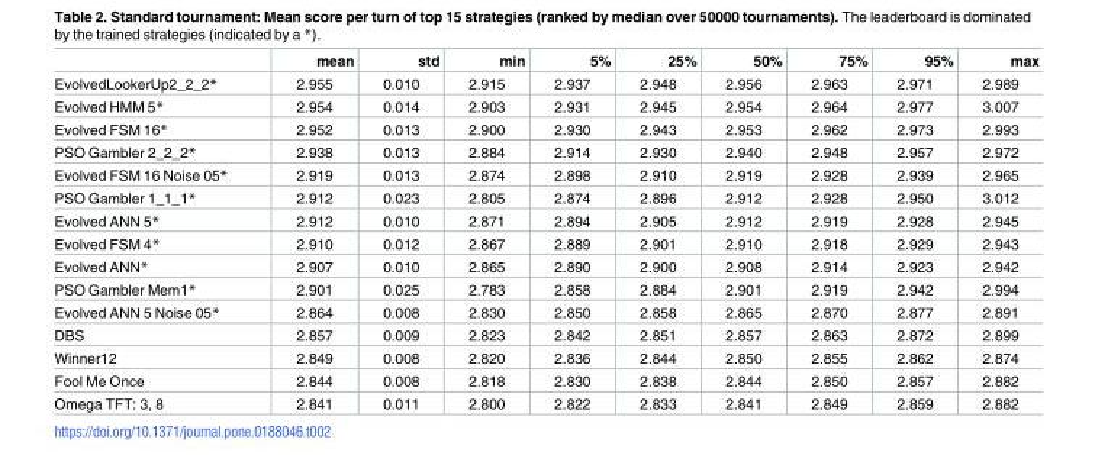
<table><thead><tr><td></td><td>mean</td><td>std</td><td>min</td><td>5%</td><td>25%</td><td>50%</td><td>75%</td><td>95%</td><td>max</td></tr></thead><tbody><tr><td>EvolvedLookerUp2_2_2*</td><td>2.955</td><td>0.010</td><td>2.915</td><td>2.937</td><td>2.948</td><td>2.956</td><td>2.963</td><td>2.971</td><td>2.989</td></tr><tr><td>Evolved HMM 5*</td><td>2.954</td><td>0.014</td><td>2.903</td><td>2.931</td><td>2.945</td><td>2.954</td><td>2.964</td><td>2.977</td><td>3.007</td></tr><tr><td>Evolved FSM 16*</td><td>2.952</td><td>0.013</td><td>2.900</td><td>2.930</td><td>2.943</td><td>2.953</td><td>2.962</td><td>2.973</td><td>2.993</td></tr><tr><td>PSO Gambler 2_2_2*</td><td>2.938</td><td>0.013</td><td>2.884</td><td>2.914</td><td>2.930</td><td>2.940</td><td>2.948</td><td>2.957</td><td>2.972</td></tr><tr><td>Evolved FSM 16 Noise 05*</td><td>2.919</td><td>0.013</td><td>2.874</td><td>2.898</td><td>2.910</td><td>2.919</td><td>2.928</td><td>2.939</td><td>2.965</td></tr><tr><td>PSO Gambler 1_1_1*</td><td>2.912</td><td>0.023</td><td>2.805</td><td>2.874</td><td>2.896</td><td>2.912</td><td>2.928</td><td>2.950</td><td>3.012</td></tr><tr><td>Evolved ANN 5*</td><td>2.912</td><td>0.010</td><td>2.871</td><td>2.894</td><td>2.905</td><td>2.912</td><td>2.919</td><td>2.928</td><td>2.945</td></tr><tr><td>Evolved FSM 4*</td><td>2.910</td><td>0.012</td><td>2.867</td><td>2.889</td><td>2.901</td><td>2.910</td><td>2.918</td><td>2.929</td><td>2.943</td></tr><tr><td>Evolved ANN*</td><td>2.907</td><td>0.010</td><td>2.865</td><td>2.890</td><td>2.900</td><td>2.908</td><td>2.914</td><td>2.923</td><td>2.942</td></tr><tr><td>PSO Gambler Mem1*</td><td>2.901</td><td>0.025</td><td>2.783</td><td>2.858</td><td>2.884</td><td>2.901</td><td>2.919</td><td>2.942</td><td>2.994</td></tr><tr><td>Evolved ANN 5 Noise 05*</td><td>2.864</td><td>0.008</td><td>2.830</td><td>2.850</td><td>2.858</td><td>2.865</td><td>2.870</td><td>2.877</td><td>2.891</td></tr><tr><td>DBS</td><td>2.857</td><td>0.009</td><td>2.823</td><td>2.842</td><td>2.851</td><td>2.857</td><td>2.863</td><td>2.872</td><td>2.899</td></tr><tr><td>Winner12</td><td>2.849</td><td>0.008</td><td>2.820</td><td>2.836</td><td>2.844</td><td>2.850</td><td>2.855</td><td>2.862</td><td>2.874</td></tr><tr><td>Fool Me Once</td><td>2.844</td><td>0.008</td><td>2.818</td><td>2.830</td><td>2.838</td><td>2.844</td><td>2.850</td><td>2.857</td><td>2.882</td></tr><tr><td>Omega TFT: 3, 8</td><td>2.841</td><td>0.011</td><td>2.800</td><td>2.822</td><td>2.833</td><td>2.841</td><td>2.849</td><td>2.859</td><td>2.882</td></tr></tbody></table>